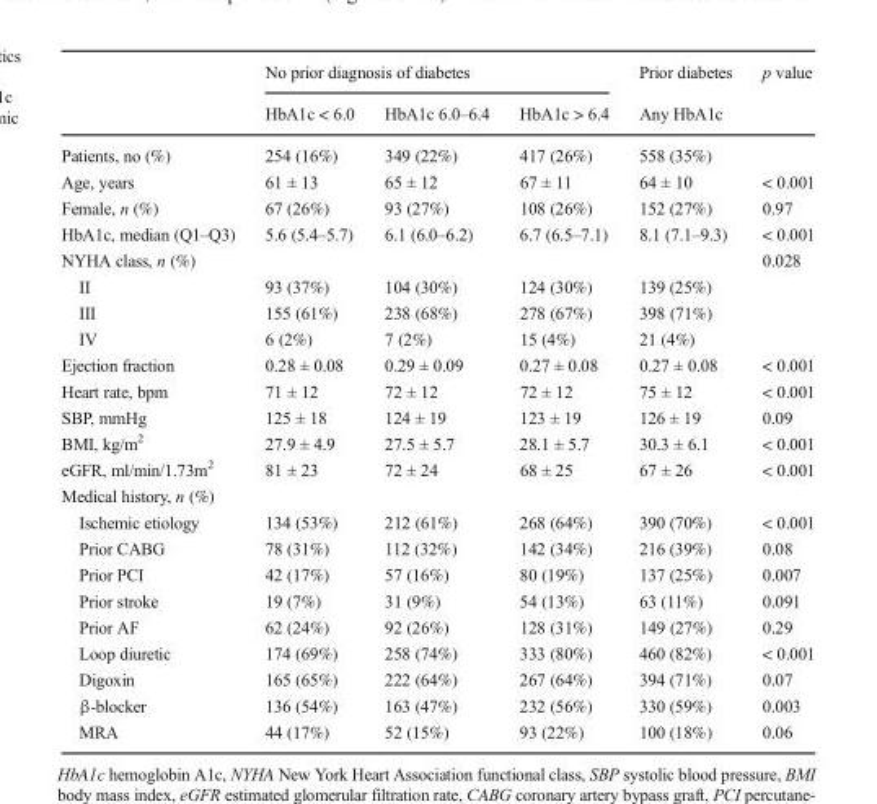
<table><thead><tr><td rowspan="2"></td><td colspan="3">No prior diagnosis of diabetes</td><td rowspan="2">Prior diabetes Any HbA1c</td><td rowspan="2">p value</td></tr><tr><td>HbA1c &lt; 6.0</td><td>HbA1c 6.0–6.4</td><td>HbA1c &gt; 6.4</td></tr></thead><tbody><tr><td>Patients, no (%)</td><td>254 (16%)</td><td>349 (22%)</td><td>417 (26%)</td><td>558 (35%)</td><td></td></tr><tr><td>Age, years</td><td>61 ± 13</td><td>65 ± 12</td><td>67 ± 11</td><td>64 ± 10</td><td>&lt; 0.001</td></tr><tr><td>Female, n (%)</td><td>67 (26%)</td><td>93 (27%)</td><td>108 (26%)</td><td>152 (27%)</td><td>0.97</td></tr><tr><td>HbA1c, median (Q1–Q3)</td><td>5.6 (5.4–5.7)</td><td>6.1 (6.0–6.2)</td><td>6.7 (6.5–7.1)</td><td>8.1 (7.1–9.3)</td><td>&lt; 0.001</td></tr><tr><td>NYHA class, n (%)</td><td></td><td></td><td></td><td></td><td>0.028</td></tr><tr><td>II</td><td>93 (37%)</td><td>104 (30%)</td><td>124 (30%)</td><td>139 (25%)</td><td></td></tr><tr><td>III</td><td>155 (61%)</td><td>238 (68%)</td><td>278 (67%)</td><td>398 (71%)</td><td></td></tr><tr><td>IV</td><td>6 (2%)</td><td>7 (2%)</td><td>15 (4%)</td><td>21 (4%)</td><td></td></tr><tr><td>Ejection fraction</td><td>0.28 ± 0.08</td><td>0.29 ± 0.09</td><td>0.27 ± 0.08</td><td>0.27 ± 0.08</td><td>&lt; 0.001</td></tr><tr><td>Heart rate, bpm</td><td>71 ± 12</td><td>72 ± 12</td><td>72 ± 12</td><td>75 ± 12</td><td>&lt; 0.001</td></tr><tr><td>SBP, mmHg</td><td>125 ± 18</td><td>124 ± 19</td><td>123 ± 19</td><td>126 ± 19</td><td>0.09</td></tr><tr><td>BMI, kg/m<sup>2</sup></td><td>27.9 ± 4.9</td><td>27.5 ± 5.7</td><td>28.1 ± 5.7</td><td>30.3 ± 6.1</td><td>&lt; 0.001</td></tr><tr><td>eGFR, ml/min/1.73m<sup>2</sup></td><td>81 ± 23</td><td>72 ± 24</td><td>68 ± 25</td><td>67 ± 26</td><td>&lt; 0.001</td></tr><tr><td colspan="6">Medical history, n (%)</td></tr><tr><td>Ischemic etiology</td><td>134 (53%)</td><td>212 (61%)</td><td>268 (64%)</td><td>390 (70%)</td><td>&lt; 0.001</td></tr><tr><td>Prior CABG</td><td>78 (31%)</td><td>112 (32%)</td><td>142 (34%)</td><td>216 (39%)</td><td>0.08</td></tr><tr><td>Prior PCI</td><td>42 (17%)</td><td>57 (16%)</td><td>80 (19%)</td><td>137 (25%)</td><td>0.007</td></tr><tr><td>Prior stroke</td><td>19 (7%)</td><td>31 (9%)</td><td>54 (13%)</td><td>63 (11%)</td><td>0.091</td></tr><tr><td>Prior AF</td><td>62 (24%)</td><td>92 (26%)</td><td>128 (31%)</td><td>149 (27%)</td><td>0.29</td></tr><tr><td>Loop diuretic</td><td>174 (69%)</td><td>258 (74%)</td><td>333 (80%)</td><td>460 (82%)</td><td>&lt; 0.001</td></tr><tr><td>Digoxin</td><td>165 (65%)</td><td>222 (64%)</td><td>267 (64%)</td><td>394 (71%)</td><td>0.07</td></tr><tr><td>β-blocker</td><td>136 (54%)</td><td>163 (47%)</td><td>232 (56%)</td><td>330 (59%)</td><td>0.003</td></tr><tr><td>MRA</td><td>44 (17%)</td><td>52 (15%)</td><td>93 (22%)</td><td>100 (18%)</td><td>0.06</td></tr></tbody></table>